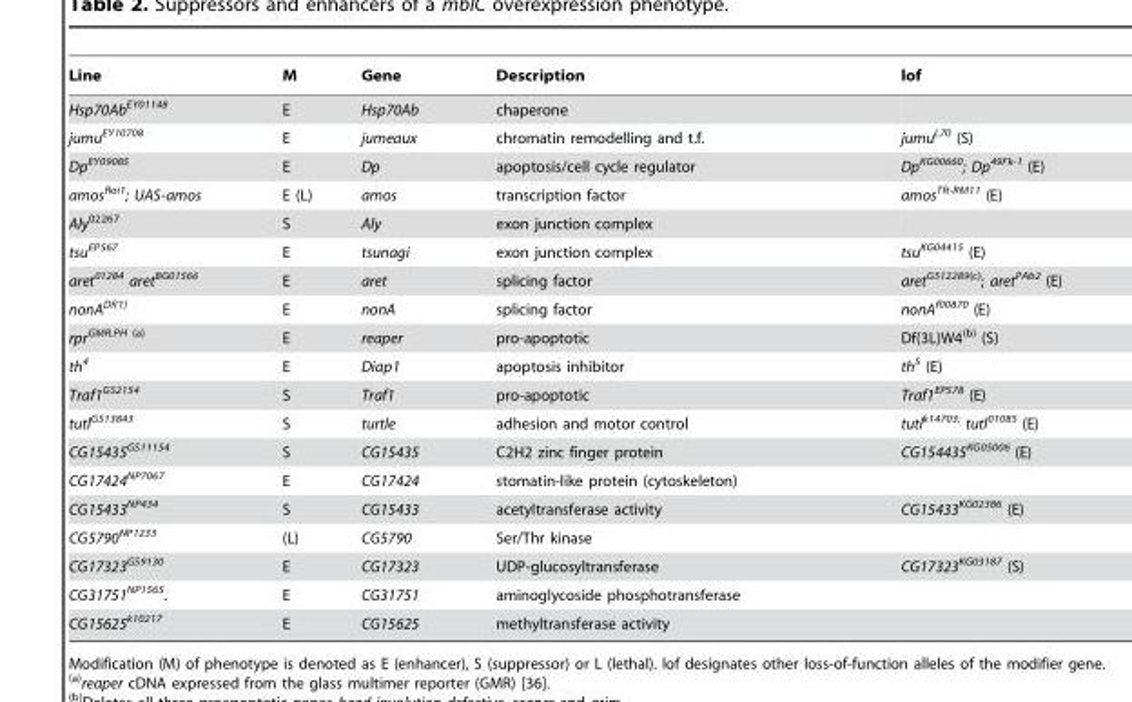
<table><thead><tr><td>Line</td><td>M</td><td>Gene</td><td>Description</td><td>lof</td></tr></thead><tbody><tr><td>Hsp70Ab<sup>EY01148</sup></td><td>E</td><td>Hsp70Ab</td><td>chaperone</td><td></td></tr><tr><td>jumu<sup>EY10708</sup></td><td>E</td><td>jumeaux</td><td>chromatin remodelling and t.f.</td><td>jumu<sup>L70</sup> (S)</td></tr><tr><td>Dp<sup>EY09085</sup></td><td>E</td><td>Dp</td><td>apoptosis/cell cycle regulator</td><td>Dp<sup>KG00660</sup>; Dp<sup>49Fk-1</sup> (E)</td></tr><tr><td>amos<sup>Roi1</sup>; UAS-amos</td><td>E (L)</td><td>amos</td><td>transcription factor</td><td>amos<sup>Tft-RM11</sup> (E)</td></tr><tr><td>Aly<sup>02267</sup></td><td>S</td><td>Aly</td><td>exon junction complex</td><td></td></tr><tr><td>tsu<sup>EP567</sup></td><td>E</td><td>tsunagi</td><td>exon junction complex</td><td>tsu<sup>KG04415</sup> (E)</td></tr><tr><td>aret<sup>01284</sup> aret<sup>BG01566</sup></td><td>E</td><td>aret</td><td>splicing factor</td><td>aret<sup>GS12289</sup>(c); aret<sup>PAb2</sup> (E)</td></tr><tr><td>nonA<sup>Df(1)</sup></td><td>E</td><td>nonA</td><td>splicing factor</td><td>nonA<sup>f00870</sup> (E)</td></tr><tr><td>rpr<sup>GMR.PH</sup> (a)</td><td>E</td><td>reaper</td><td>pro-apoptotic</td><td>Df(3L)W4(b) (S)</td></tr><tr><td>th<sup>4</sup></td><td>E</td><td>Diap1</td><td>apoptosis inhibitor</td><td>th<sup>5</sup> (E)</td></tr><tr><td>Traf1<sup>GS2154</sup></td><td>S</td><td>Traf1</td><td>pro-apoptotic</td><td>Traf1<sup>EP578</sup> (E)</td></tr><tr><td>tutl<sup>GS13843</sup></td><td>S</td><td>turtle</td><td>adhesion and motor control</td><td>tutl<sup>k14703;</sup> tutl<sup>01085</sup> (E)</td></tr><tr><td>CG15435<sup>GS11154</sup></td><td>S</td><td>CG15435</td><td>C2H2 zinc finger protein</td><td>CG154435<sup>KG05006</sup> (E)</td></tr><tr><td>CG17424<sup>NP7067</sup></td><td>E</td><td>CG17424</td><td>stomatin-like protein (cytoskeleton)</td><td></td></tr><tr><td>CG15433<sup>NP434</sup></td><td>S</td><td>CG15433</td><td>acetyltransferase activity</td><td>CG15433<sup>KG02386</sup> (E)</td></tr><tr><td>CG5790<sup>NP1233</sup></td><td>(L)</td><td>CG5790</td><td>Ser/Thr kinase</td><td></td></tr><tr><td>CG17323<sup>GS9130</sup></td><td>E</td><td>CG17323</td><td>UDP-glucosyltransferase</td><td>CG17323<sup>KG03187</sup> (S)</td></tr><tr><td>CG31751<sup>NP1565</sup>.</td><td>E</td><td>CG31751</td><td>aminoglycoside phosphotransferase</td><td></td></tr><tr><td>CG15625<sup>k10217</sup></td><td>E</td><td>CG15625</td><td>methyltransferase activity</td><td></td></tr></tbody></table>